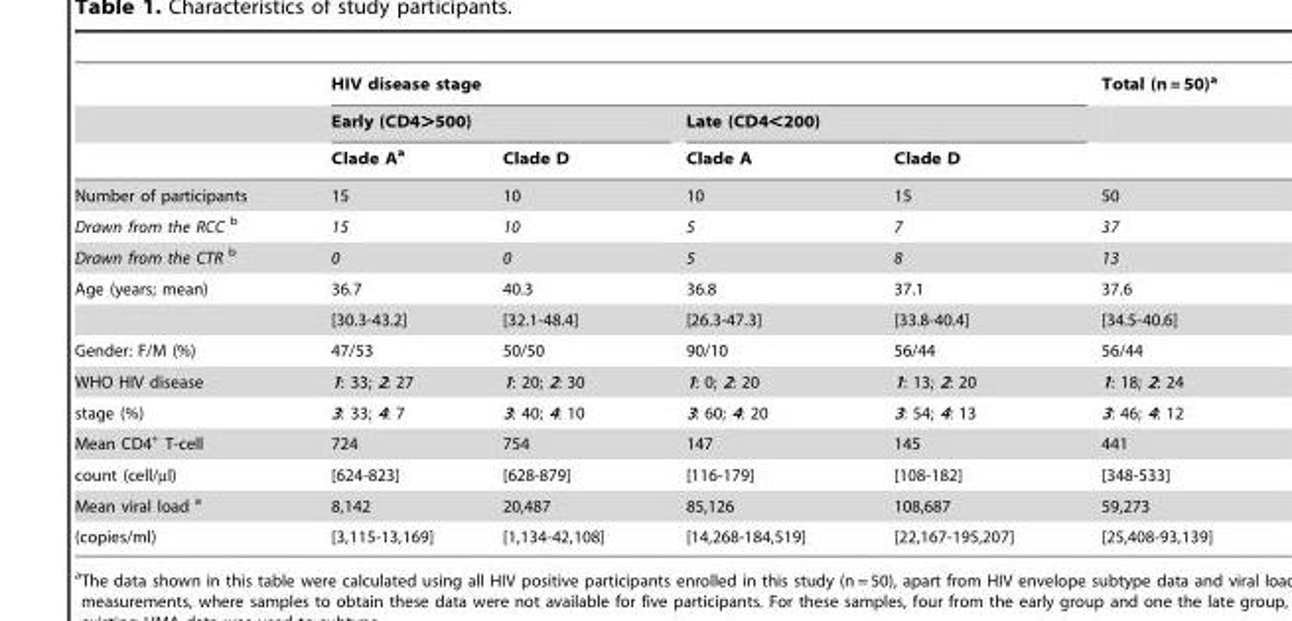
<table><thead><tr><td rowspan="3"></td><td colspan="4">HIV disease stage</td><td rowspan="3">Total (n = 50)<sup>a</sup></td></tr><tr><td colspan="2">Early (CD4&gt;500)</td><td colspan="2">Late (CD4&lt;200)</td></tr><tr><td>Clade A<sup>a</sup></td><td>Clade D</td><td>Clade A</td><td>Clade D</td></tr></thead><tbody><tr><td>Number of participants</td><td>15</td><td>10</td><td>10</td><td>15</td><td>50</td></tr><tr><td>Drawn from the RCC <sup>b</sup></td><td>15</td><td>10</td><td>5</td><td>7</td><td>37</td></tr><tr><td>Drawn from the CTR <sup>b</sup></td><td>0</td><td>0</td><td>5</td><td>8</td><td>13</td></tr><tr><td rowspan="2">Age (years; mean)</td><td>36.7</td><td>40.3</td><td>36.8</td><td>37.1</td><td>37.6</td></tr><tr><td>[30.3-43.2]</td><td>[32.1-48.4]</td><td>[26.3-47.3]</td><td>[33.8-40.4]</td><td>[34.5-40.6]</td></tr><tr><td>Gender: F/M (%)</td><td>47/53</td><td>50/50</td><td>90/10</td><td>56/44</td><td>56/44</td></tr><tr><td>WHO HIV disease</td><td>1: 33; 2: 27</td><td>1: 20; 2: 30</td><td>1: 0; 2: 20</td><td>1: 13; 2: 20</td><td>1: 18; 2: 24</td></tr><tr><td>stage (%)</td><td>3: 33; 4: 7</td><td>3: 40; 4: 10</td><td>3: 60; 4: 20</td><td>3: 54; 4: 13</td><td>3: 46; 4: 12</td></tr><tr><td>Mean CD4<sup>+</sup> T-cell</td><td>724</td><td>754</td><td>147</td><td>145</td><td>441</td></tr><tr><td>count (cell/µl)</td><td>[624-823]</td><td>[628-879]</td><td>[116-179]</td><td>[108-182]</td><td>[348-533]</td></tr><tr><td>Mean viral load a</td><td>8,142</td><td>20,487</td><td>85,126</td><td>108,687</td><td>59,273</td></tr><tr><td>(copies/ml)</td><td>[3,115-13,169]</td><td>[1,134-42,108]</td><td>[14,268-184,519]</td><td>[22,167-195,207]</td><td>[25,408-93,139]</td></tr></tbody></table>